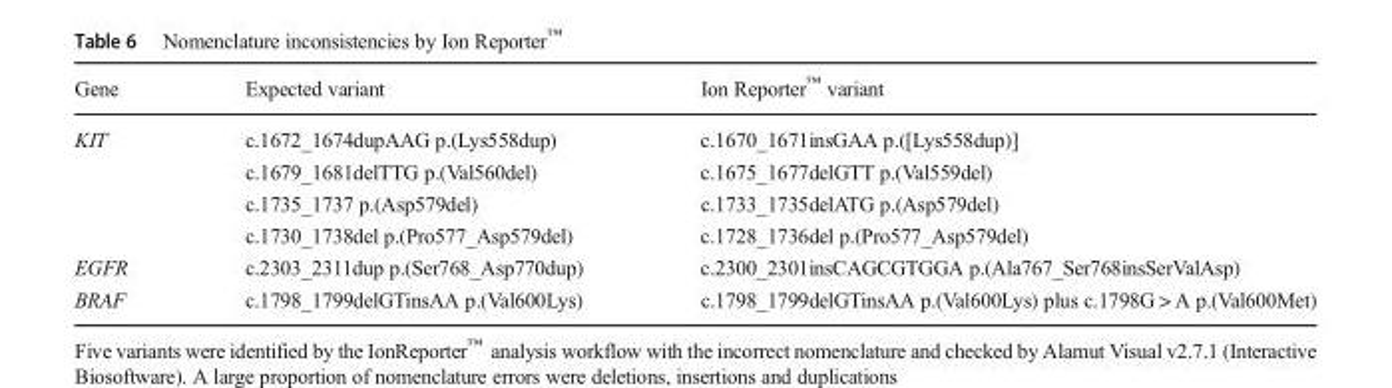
<table><thead><tr><td>Gene</td><td>Expected variant</td><td>Ion Reporter<sup>™</sup> variant</td></tr></thead><tbody><tr><td rowspan="4">KIT</td><td>c.1672_1674dupAAG p.(Lys558dup)</td><td>c.1670_1671insGAA p.([Lys558dup)]</td></tr><tr><td>c.1679_1681delTTG p.(Val560del)</td><td>c.1675_1677delGTT p.(Val559del)</td></tr><tr><td>c.1735_1737 p.(Asp579del)</td><td>c.1733_1735delATG p.(Asp579del)</td></tr><tr><td>c.1730_1738del p.(Pro577_Asp579del)</td><td>c.1728_1736del p.(Pro577_Asp579del)</td></tr><tr><td>EGFR</td><td>c.2303_2311dup p.(Ser768_Asp770dup)</td><td>c.2300_2301insCAGCGTGGA p.(Ala767_Ser768insSerValAsp)</td></tr><tr><td>BRAF</td><td>c.1798_1799delGTinsAA p.(Val600Lys)</td><td>c.1798_1799delGTinsAA p.(Val600Lys) plus c.1798G &gt; A p.(Val600Met)</td></tr></tbody></table>